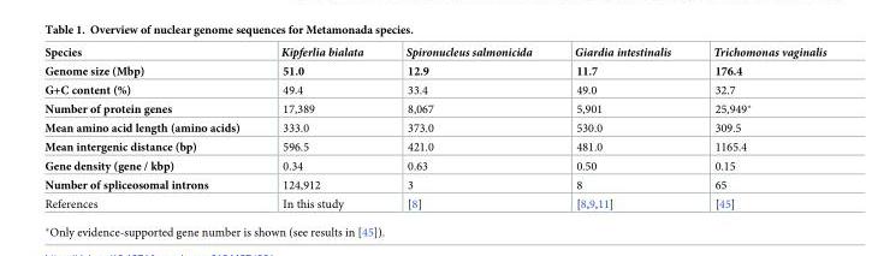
<table><thead><tr><td>Species</td><td>Kipferlia bialata</td><td>Spironucleus salmonicida</td><td>Giardia intestinalis</td><td>Trichomonas vaginalis</td></tr></thead><tbody><tr><td>Genome size (Mbp)</td><td>51.0</td><td>12.9</td><td>11.7</td><td>176.4</td></tr><tr><td>G+C content (%)</td><td>49.4</td><td>33.4</td><td>49.0</td><td>32.7</td></tr><tr><td>Number of protein genes</td><td>17,389</td><td>8,067</td><td>5,901</td><td>25,949*</td></tr><tr><td>Mean amino acid length (amino acids)</td><td>333.0</td><td>373.0</td><td>530.0</td><td>309.5</td></tr><tr><td>Mean intergenic distance (bp)</td><td>596.5</td><td>421.0</td><td>481.0</td><td>1165.4</td></tr><tr><td>Gene density (gene / kbp)</td><td>0.34</td><td>0.63</td><td>0.50</td><td>0.15</td></tr><tr><td>Number of spliceosomal introns</td><td>124,912</td><td>3</td><td>8</td><td>65</td></tr><tr><td>References</td><td>In this study</td><td>[8]</td><td>[8,9,11]</td><td>[45]</td></tr></tbody></table>